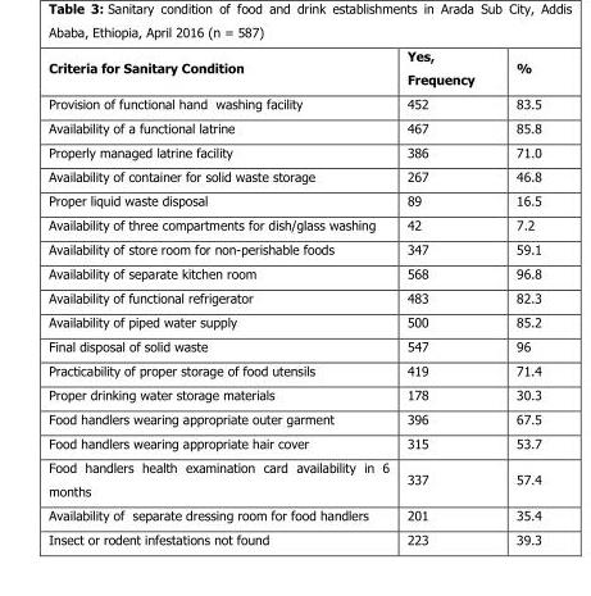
<table><thead><tr><td>Criteria for Sanitary Condition</td><td>Yes, Frequency</td><td>%</td></tr></thead><tbody><tr><td>Provision of functional hand washing facility</td><td>452</td><td>83.5</td></tr><tr><td>Availability of a functional latrine</td><td>467</td><td>85.8</td></tr><tr><td>Properly managed latrine facility</td><td>386</td><td>71.0</td></tr><tr><td>Availability of container for solid waste storage</td><td>267</td><td>46.8</td></tr><tr><td>Proper liquid waste disposal</td><td>89</td><td>16.5</td></tr><tr><td>Availability of three compartments for dish/glass washing</td><td>42</td><td>7.2</td></tr><tr><td>Availability of store room for non-perishable foods</td><td>347</td><td>59.1</td></tr><tr><td>Availability of separate kitchen room</td><td>568</td><td>96.8</td></tr><tr><td>Availability of functional refrigerator</td><td>483</td><td>82.3</td></tr><tr><td>Availability of piped water supply</td><td>500</td><td>85.2</td></tr><tr><td>Final disposal of solid waste</td><td>547</td><td>96</td></tr><tr><td>Practicability of proper storage of food utensils</td><td>419</td><td>71.4</td></tr><tr><td>Proper drinking water storage materials</td><td>178</td><td>30.3</td></tr><tr><td>Food handlers wearing appropriate outer garment</td><td>396</td><td>67.5</td></tr><tr><td>Food handlers wearing appropriate hair cover</td><td>315</td><td>53.7</td></tr><tr><td>Food handlers health examination card availability in 6 months</td><td>337</td><td>57.4</td></tr><tr><td>Availability of separate dressing room for food handlers</td><td>201</td><td>35.4</td></tr><tr><td>Insect or rodent infestations not found</td><td>223</td><td>39.3</td></tr></tbody></table>